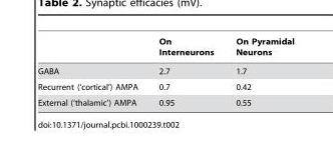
<table><thead><tr><td></td><td>On Interneurons</td><td>On Pyramidal Neurons</td></tr></thead><tbody><tr><td>GABA</td><td>2.7</td><td>1.7</td></tr><tr><td>Recurrent (‘cortical’) AMPA</td><td>0.7</td><td>0.42</td></tr><tr><td>External (‘thalamic’) AMPA</td><td>0.95</td><td>0.55</td></tr></tbody></table>